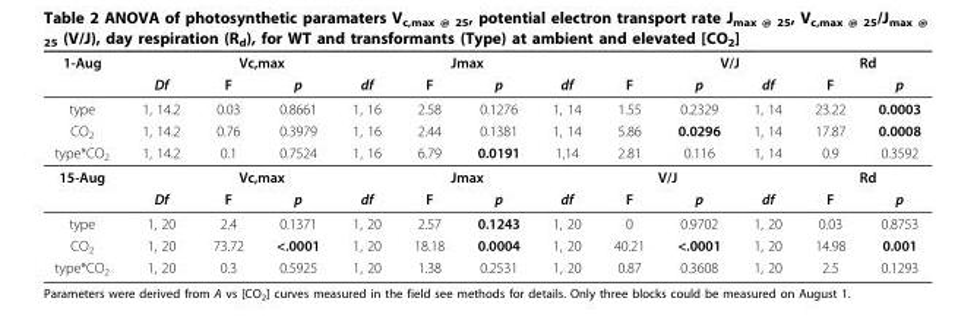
<table><thead><tr><td rowspan="2">1-Aug</td><td colspan="4">Vc,max</td><td colspan="2">Jmax</td><td rowspan="2">df</td><td rowspan="2">F</td><td colspan="2">V/J</td><td colspan="2">Rd</td></tr><tr><td>Df</td><td>F</td><td>p</td><td>df</td><td>F</td><td>p</td><td>p</td><td>df</td><td>F</td><td>p</td></tr></thead><tbody><tr><td>type</td><td>1, 14.2</td><td>0.03</td><td>0.8661</td><td>1, 16</td><td>2.58</td><td>0.1276</td><td>1, 14</td><td>1.55</td><td>0.2329</td><td>1, 14</td><td>23.22</td><td>0.0003</td></tr><tr><td>CO<sub>2</sub></td><td>1, 14.2</td><td>0.76</td><td>0.3979</td><td>1, 16</td><td>2.44</td><td>0.1381</td><td>1, 14</td><td>5.86</td><td>0.0296</td><td>1, 14</td><td>17.87</td><td>0.0008</td></tr><tr><td>type*CO<sub>2</sub></td><td>1, 14.2</td><td>0.1</td><td>0.7524</td><td>1, 16</td><td>6.79</td><td>0.0191</td><td>1,14</td><td>2.81</td><td>0.116</td><td>1, 14</td><td>0.9</td><td>0.3592</td></tr><tr><td rowspan="2">15-Aug</td><td colspan="4">Vc,max</td><td colspan="2">Jmax</td><td colspan="4">V/J</td><td colspan="2">Rd</td></tr><tr><td>Df</td><td>F</td><td>p</td><td>df</td><td>F</td><td>p</td><td>df</td><td>F</td><td>p</td><td>df</td><td>F</td><td>p</td></tr><tr><td>type</td><td>1, 20</td><td>2.4</td><td>0.1371</td><td>1, 20</td><td>2.57</td><td>0.1243</td><td>1, 20</td><td>0</td><td>0.9702</td><td>1, 20</td><td>0.03</td><td>0.8753</td></tr><tr><td>CO<sub>2</sub></td><td>1, 20</td><td>73.72</td><td>&lt;.0001</td><td>1, 20</td><td>18.18</td><td>0.0004</td><td>1, 20</td><td>40.21</td><td>&lt;.0001</td><td>1, 20</td><td>14.98</td><td>0.001</td></tr><tr><td>type*CO<sub>2</sub></td><td>1, 20</td><td>0.3</td><td>0.5925</td><td>1, 20</td><td>1.38</td><td>0.2531</td><td>1, 20</td><td>0.87</td><td>0.3608</td><td>1, 20</td><td>2.5</td><td>0.1293</td></tr></tbody></table>